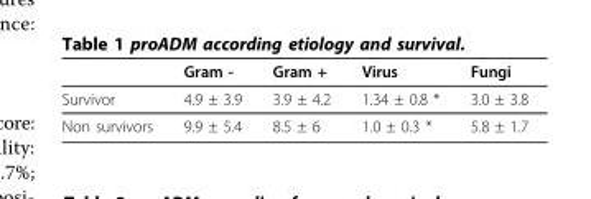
<table><thead><tr><td></td><td>Gram -</td><td>Gram +</td><td>Virus</td><td>Fungi</td></tr></thead><tbody><tr><td>Survivor</td><td>4.9 ± 3.9</td><td>3.9 ± 4.2</td><td>1.34 ± 0.8 *</td><td>3.0 ± 3.8</td></tr><tr><td>Non survivors</td><td>9.9 ± 5.4</td><td>8.5 ± 6</td><td>1.0 ± 0.3 *</td><td>5.8 ± 1.7</td></tr></tbody></table>